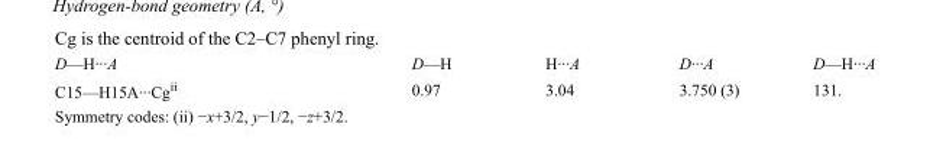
<table><tbody><tr><td>D—H···A</td><td>D—H</td><td>H···A</td><td>D···A</td><td>D—H···A</td></tr><tr><td>C15—H15A···Cg<sup>ii</sup></td><td>0.97</td><td>3.04</td><td>3.750 (3)</td><td>131.</td></tr></tbody></table>